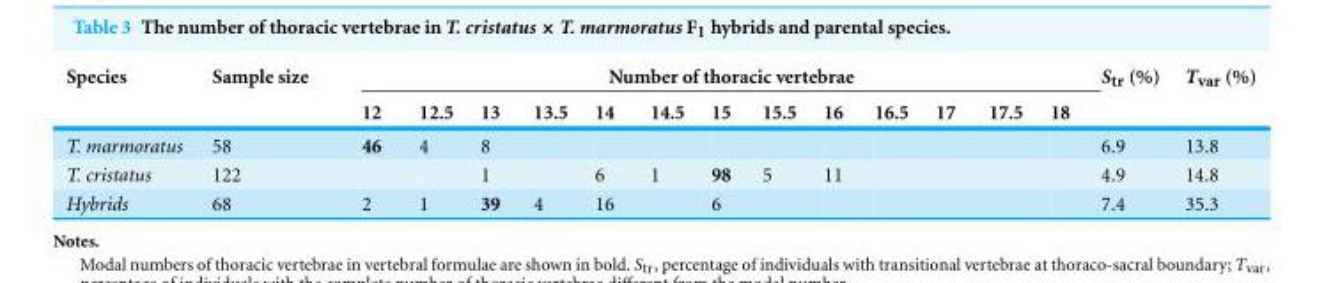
<table><thead><tr><td rowspan="2">Species</td><td rowspan="2">Sample size</td><td colspan="13">Number of thoracic vertebrae</td><td rowspan="2">S<sub>tr</sub> (%)</td><td rowspan="2">T<sub>var</sub> (%)</td></tr><tr><td>12</td><td>12.5</td><td>13</td><td>13.5</td><td>14</td><td>14.5</td><td>15</td><td>15.5</td><td>16</td><td>16.5</td><td>17</td><td>17.5</td><td>18</td></tr></thead><tbody><tr><td>T. marmoratus</td><td>58</td><td>46</td><td>4</td><td>8</td><td></td><td></td><td></td><td></td><td></td><td></td><td></td><td></td><td></td><td></td><td>6.9</td><td>13.8</td></tr><tr><td>T. cristatus</td><td>122</td><td></td><td></td><td>1</td><td></td><td>6</td><td>1</td><td>98</td><td>5</td><td>11</td><td></td><td></td><td></td><td></td><td>4.9</td><td>14.8</td></tr><tr><td>Hybrids</td><td>68</td><td>2</td><td>1</td><td>39</td><td>4</td><td>16</td><td></td><td>6</td><td></td><td></td><td></td><td></td><td></td><td></td><td>7.4</td><td>35.3</td></tr></tbody></table>